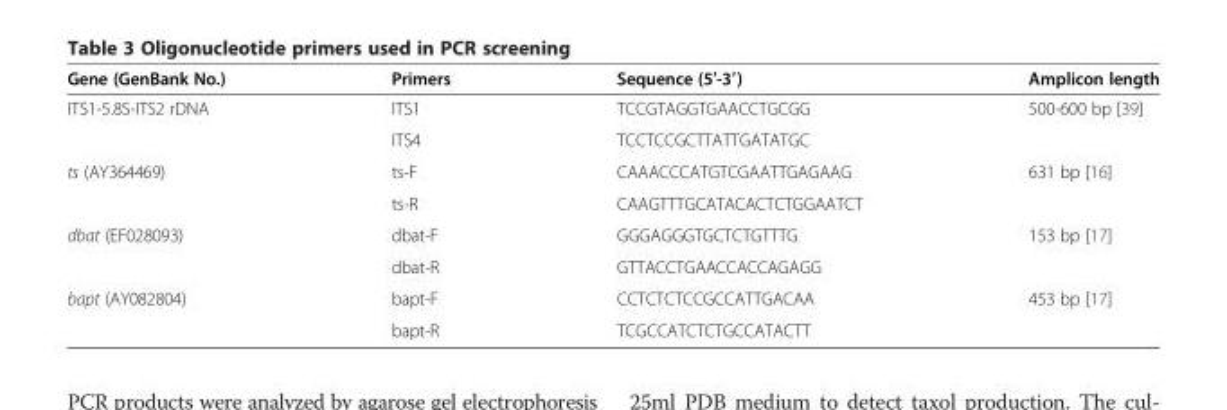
<table><thead><tr><td>Gene (GenBank No.)</td><td>Primers</td><td>Sequence (5′-3′)</td><td>Amplicon length</td></tr></thead><tbody><tr><td rowspan="2">ITS1-5.8S-ITS2 rDNA</td><td>ITS1</td><td>TCCGTAGGTGAACCTGCGG</td><td>500-600 bp [39]</td></tr><tr><td>ITS4</td><td>TCCTCCGCTTATTGATATGC</td><td></td></tr><tr><td rowspan="2">ts (AY364469)</td><td>ts-F</td><td>CAAACCCATGTCGAATTGAGAAG</td><td>631 bp [16]</td></tr><tr><td>ts-R</td><td>CAAGTTTGCATACACTCTGGAATCT</td><td></td></tr><tr><td rowspan="2">dbat (EF028093)</td><td>dbat-F</td><td>GGGAGGGTGCTCTGTTTG</td><td>153 bp [17]</td></tr><tr><td>dbat-R</td><td>GTTACCTGAACCACCAGAGG</td><td></td></tr><tr><td rowspan="2">bapt (AY082804)</td><td>bapt-F</td><td>CCTCTCTCCGCCATTGACAA</td><td>453 bp [17]</td></tr><tr><td>bapt-R</td><td>TCGCCATCTCTGCCATACTT</td><td></td></tr></tbody></table>